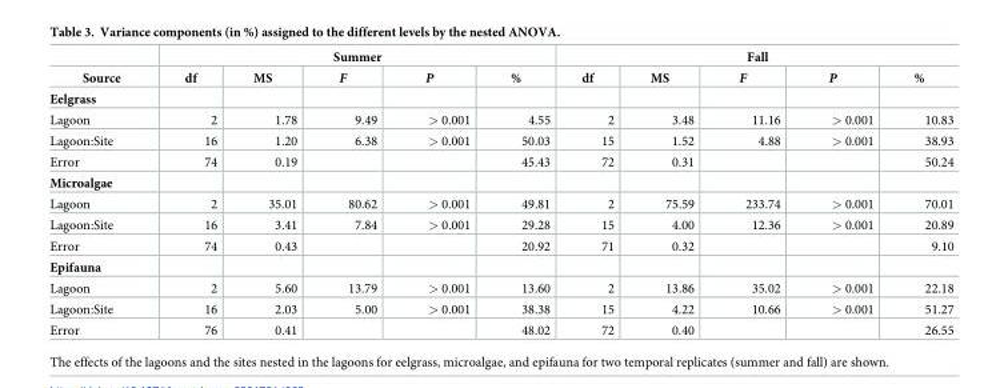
<table><thead><tr><td rowspan="2">Source</td><td colspan="5">Summer</td><td colspan="5">Fall</td></tr><tr><td>df</td><td>MS</td><td>F</td><td>P</td><td>%</td><td>df</td><td>MS</td><td>F</td><td>P</td><td>%</td></tr></thead><tbody><tr><td colspan="11">Eelgrass</td></tr><tr><td>Lagoon</td><td>2</td><td>1.78</td><td>9.49</td><td>&gt; 0.001</td><td>4.55</td><td>2</td><td>3.48</td><td>11.16</td><td>&gt; 0.001</td><td>10.83</td></tr><tr><td>Lagoon:Site</td><td>16</td><td>1.20</td><td>6.38</td><td>&gt; 0.001</td><td>50.03</td><td>15</td><td>1.52</td><td>4.88</td><td>&gt; 0.001</td><td>38.93</td></tr><tr><td>Error</td><td>74</td><td>0.19</td><td></td><td></td><td>45.43</td><td>72</td><td>0.31</td><td></td><td></td><td>50.24</td></tr><tr><td colspan="11">Microalgae</td></tr><tr><td>Lagoon</td><td>2</td><td>35.01</td><td>80.62</td><td>&gt; 0.001</td><td>49.81</td><td>2</td><td>75.59</td><td>233.74</td><td>&gt; 0.001</td><td>70.01</td></tr><tr><td>Lagoon:Site</td><td>16</td><td>3.41</td><td>7.84</td><td>&gt; 0.001</td><td>29.28</td><td>15</td><td>4.00</td><td>12.36</td><td>&gt; 0.001</td><td>20.89</td></tr><tr><td>Error</td><td>74</td><td>0.43</td><td></td><td></td><td>20.92</td><td>71</td><td>0.32</td><td></td><td></td><td>9.10</td></tr><tr><td colspan="11">Epifauna</td></tr><tr><td>Lagoon</td><td>2</td><td>5.60</td><td>13.79</td><td>&gt; 0.001</td><td>13.60</td><td>2</td><td>13.86</td><td>35.02</td><td>&gt; 0.001</td><td>22.18</td></tr><tr><td>Lagoon:Site</td><td>16</td><td>2.03</td><td>5.00</td><td>&gt; 0.001</td><td>38.38</td><td>15</td><td>4.22</td><td>10.66</td><td>&gt; 0.001</td><td>51.27</td></tr><tr><td>Error</td><td>76</td><td>0.41</td><td></td><td></td><td>48.02</td><td>72</td><td>0.40</td><td></td><td></td><td>26.55</td></tr></tbody></table>